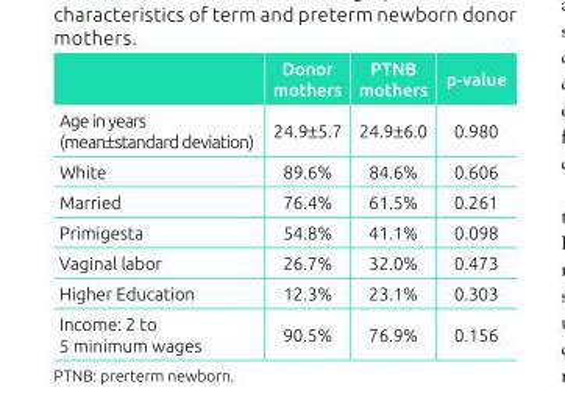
<table><thead><tr><td></td><td>Donor mothers</td><td>PTNB mothers</td><td>p-value</td></tr></thead><tbody><tr><td>Age in years (mean±standard deviation)</td><td>24.9±5.7</td><td>24.9±6.0</td><td>0.980</td></tr><tr><td>White</td><td>89.6%</td><td>84.6%</td><td>0.606</td></tr><tr><td>Married</td><td>76.4%</td><td>61.5%</td><td>0.261</td></tr><tr><td>Primigesta</td><td>54.8%</td><td>41.1%</td><td>0.098</td></tr><tr><td>Vaginal labor</td><td>26.7%</td><td>32.0%</td><td>0.473</td></tr><tr><td>Higher Education</td><td>12.3%</td><td>23.1%</td><td>0.303</td></tr><tr><td>Income: 2 to 5 minimum wages</td><td>90.5%</td><td>76.9%</td><td>0.156</td></tr></tbody></table>